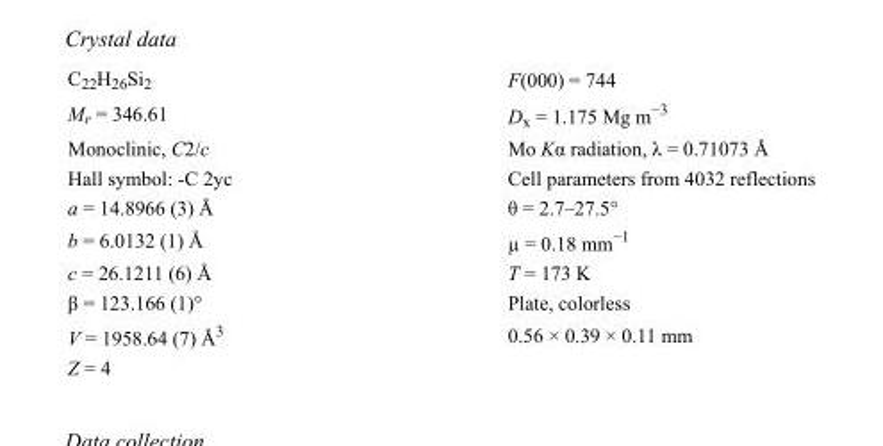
<table><tbody><tr><td>C<sub>22</sub>H<sub>26</sub>Si<sub>2</sub></td><td>F(000) = 744</td></tr><tr><td>M<sub>r</sub> = 346.61</td><td>D<sub>x</sub> = 1.175 Mg m<sup>−3</sup></td></tr><tr><td>Monoclinic, C2/c</td><td>Mo Kα radiation, λ = 0.71073 Å</td></tr><tr><td>Hall symbol: -C 2yc</td><td>Cell parameters from 4032 reflections</td></tr><tr><td>a = 14.8966 (3) Å</td><td>θ = 2.7–27.5°</td></tr><tr><td>b = 6.0132 (1) Å</td><td>µ = 0.18 mm<sup>−1</sup></td></tr><tr><td>c = 26.1211 (6) Å</td><td>T = 173 K</td></tr><tr><td>β = 123.166 (1)°</td><td>Plate, colorless</td></tr><tr><td>V = 1958.64 (7) Å<sup>3</sup></td><td>0.56 × 0.39 × 0.11 mm</td></tr><tr><td>Z = 4</td><td></td></tr></tbody></table>